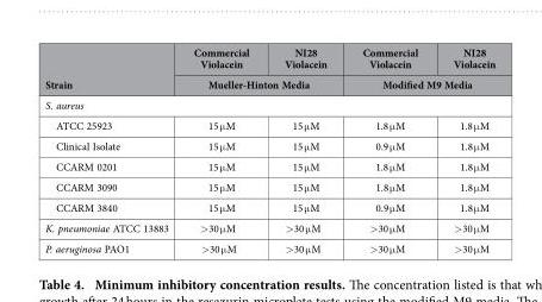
<table><thead><tr><td rowspan="2">Strain</td><td>Commercial Violacein</td><td>NI28 Violacein</td><td>Commercial Violacein</td><td>NI28 Violacein</td></tr><tr><td colspan="2">Mueller-Hinton Media</td><td colspan="2">Modified M9 Media</td></tr></thead><tbody><tr><td colspan="5">S. aureus</td></tr><tr><td>ATCC 25923</td><td>15 μ M</td><td>15 μ M</td><td>1.8 μ M</td><td>1.8 μ M</td></tr><tr><td>Clinical Isolate</td><td>15 μ M</td><td>15 μ M</td><td>0.9 μ M</td><td>1.8 μ M</td></tr><tr><td>CCARM 0201</td><td>15 μ M</td><td>15 μ M</td><td>1.8 μ M</td><td>1.8 μ M</td></tr><tr><td>CCARM 3090</td><td>15 μ M</td><td>15 μ M</td><td>1.8 μ M</td><td>1.8 μ M</td></tr><tr><td>CCARM 3840</td><td>15 μ M</td><td>15 μ M</td><td>0.9 μ M</td><td>1.8 μ M</td></tr><tr><td>K. pneumoniae ATCC 13883</td><td>&gt;30 μ M</td><td>&gt;30 μ M</td><td>&gt;30 μ M</td><td>&gt;30 μ M</td></tr><tr><td>P. aeruginosa PAO1</td><td>&gt;30 μ M</td><td>&gt;30 μ M</td><td>&gt;30 μ M</td><td>&gt;30 μ M</td></tr></tbody></table>